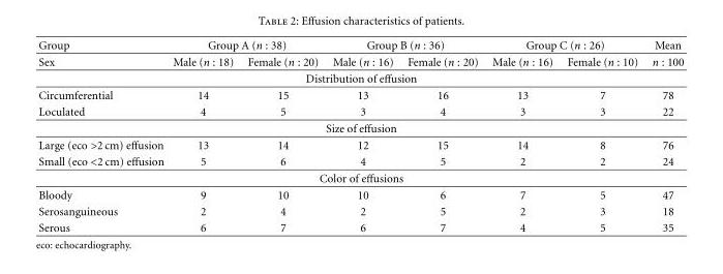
<table><thead><tr><td rowspan="2">Group Sex</td><td colspan="2">Group A (n : 38)</td><td colspan="2">Group B (n : 36)</td><td colspan="2">Group C (n : 26)</td><td rowspan="2">Mean n : 100</td></tr><tr><td>Male (n : 18)</td><td>Female (n : 20)</td><td>Male (n : 16)</td><td>Female (n : 20)</td><td>Male (n : 16)</td><td>Female (n : 10)</td></tr></thead><tbody><tr><td colspan="8">Distribution of effusion</td></tr><tr><td>Circumferential</td><td>14</td><td>15</td><td>13</td><td>16</td><td>13</td><td>7</td><td>78</td></tr><tr><td>Loculated</td><td>4</td><td>5</td><td>3</td><td>4</td><td>3</td><td>3</td><td>22</td></tr><tr><td colspan="8">Size of effusion</td></tr><tr><td>Large (eco &gt;2 cm) effusion</td><td>13</td><td>14</td><td>12</td><td>15</td><td>14</td><td>8</td><td>76</td></tr><tr><td>Small (eco &lt;2 cm) effusion</td><td>5</td><td>6</td><td>4</td><td>5</td><td>2</td><td>2</td><td>24</td></tr><tr><td colspan="8">Color of effusions</td></tr><tr><td>Bloody</td><td>9</td><td>10</td><td>10</td><td>6</td><td>7</td><td>5</td><td>47</td></tr><tr><td>Serosanguineous</td><td>2</td><td>4</td><td>2</td><td>5</td><td>2</td><td>3</td><td>18</td></tr><tr><td>Serous</td><td>6</td><td>7</td><td>6</td><td>7</td><td>4</td><td>5</td><td>35</td></tr></tbody></table>